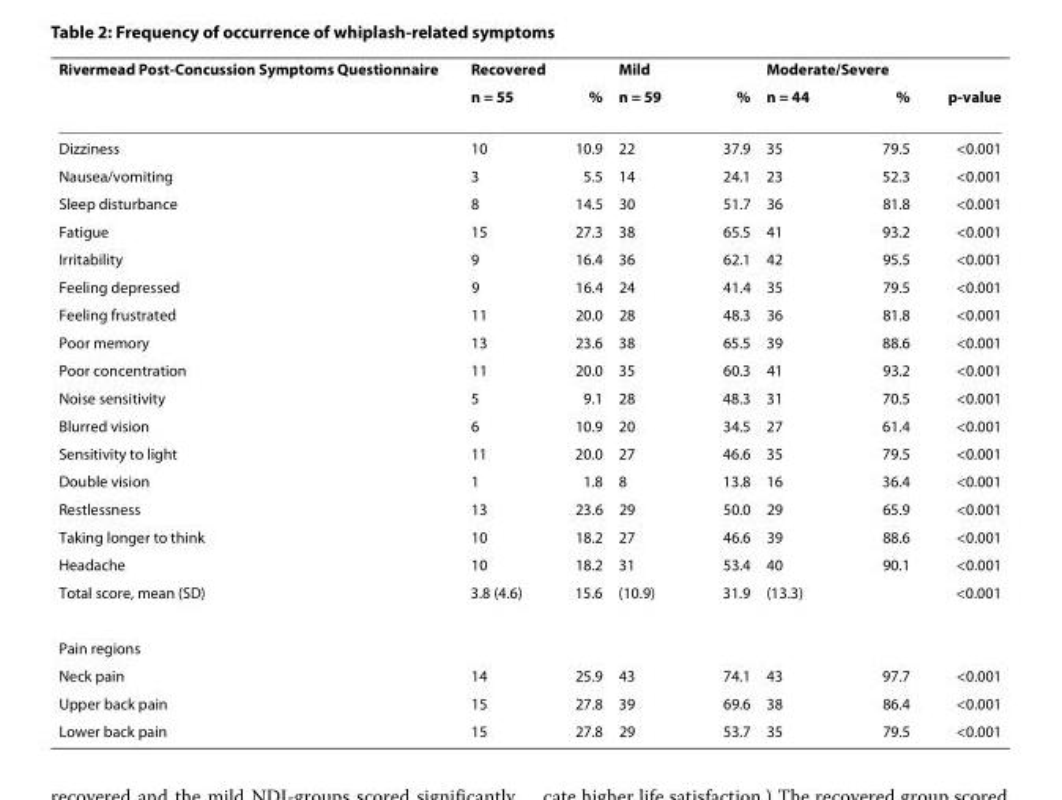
<table><thead><tr><td rowspan="2">Rivermead Post-Concussion Symptoms Questionnaire</td><td colspan="2">Recovered</td><td colspan="2">Mild</td><td colspan="2">Moderate/Severe</td><td rowspan="2">p-value</td></tr><tr><td>n = 55</td><td>%</td><td>n = 59</td><td>%</td><td>n = 44</td><td>%</td></tr></thead><tbody><tr><td>Dizziness</td><td>10</td><td>10.9</td><td>22</td><td>37.9</td><td>35</td><td>79.5</td><td>&lt;0.001</td></tr><tr><td>Nausea/vomiting</td><td>3</td><td>5.5</td><td>14</td><td>24.1</td><td>23</td><td>52.3</td><td>&lt;0.001</td></tr><tr><td>Sleep disturbance</td><td>8</td><td>14.5</td><td>30</td><td>51.7</td><td>36</td><td>81.8</td><td>&lt;0.001</td></tr><tr><td>Fatigue</td><td>15</td><td>27.3</td><td>38</td><td>65.5</td><td>41</td><td>93.2</td><td>&lt;0.001</td></tr><tr><td>Irritability</td><td>9</td><td>16.4</td><td>36</td><td>62.1</td><td>42</td><td>95.5</td><td>&lt;0.001</td></tr><tr><td>Feeling depressed</td><td>9</td><td>16.4</td><td>24</td><td>41.4</td><td>35</td><td>79.5</td><td>&lt;0.001</td></tr><tr><td>Feeling frustrated</td><td>11</td><td>20.0</td><td>28</td><td>48.3</td><td>36</td><td>81.8</td><td>&lt;0.001</td></tr><tr><td>Poor memory</td><td>13</td><td>23.6</td><td>38</td><td>65.5</td><td>39</td><td>88.6</td><td>&lt;0.001</td></tr><tr><td>Poor concentration</td><td>11</td><td>20.0</td><td>35</td><td>60.3</td><td>41</td><td>93.2</td><td>&lt;0.001</td></tr><tr><td>Noise sensitivity</td><td>5</td><td>9.1</td><td>28</td><td>48.3</td><td>31</td><td>70.5</td><td>&lt;0.001</td></tr><tr><td>Blurred vision</td><td>6</td><td>10.9</td><td>20</td><td>34.5</td><td>27</td><td>61.4</td><td>&lt;0.001</td></tr><tr><td>Sensitivity to light</td><td>11</td><td>20.0</td><td>27</td><td>46.6</td><td>35</td><td>79.5</td><td>&lt;0.001</td></tr><tr><td>Double vision</td><td>1</td><td>1.8</td><td>8</td><td>13.8</td><td>16</td><td>36.4</td><td>&lt;0.001</td></tr><tr><td>Restlessness</td><td>13</td><td>23.6</td><td>29</td><td>50.0</td><td>29</td><td>65.9</td><td>&lt;0.001</td></tr><tr><td>Taking longer to think</td><td>10</td><td>18.2</td><td>27</td><td>46.6</td><td>39</td><td>88.6</td><td>&lt;0.001</td></tr><tr><td>Headache</td><td>10</td><td>18.2</td><td>31</td><td>53.4</td><td>40</td><td>90.1</td><td>&lt;0.001</td></tr><tr><td>Total score, mean (SD)</td><td>3.8 (4.6)</td><td>15.6</td><td>(10.9)</td><td>31.9</td><td>(13.3)</td><td></td><td>&lt;0.001</td></tr><tr><td colspan="8">Pain regions</td></tr><tr><td>Neck pain</td><td>14</td><td>25.9</td><td>43</td><td>74.1</td><td>43</td><td>97.7</td><td>&lt;0.001</td></tr><tr><td>Upper back pain</td><td>15</td><td>27.8</td><td>39</td><td>69.6</td><td>38</td><td>86.4</td><td>&lt;0.001</td></tr><tr><td>Lower back pain</td><td>15</td><td>27.8</td><td>29</td><td>53.7</td><td>35</td><td>79.5</td><td>&lt;0.001</td></tr></tbody></table>